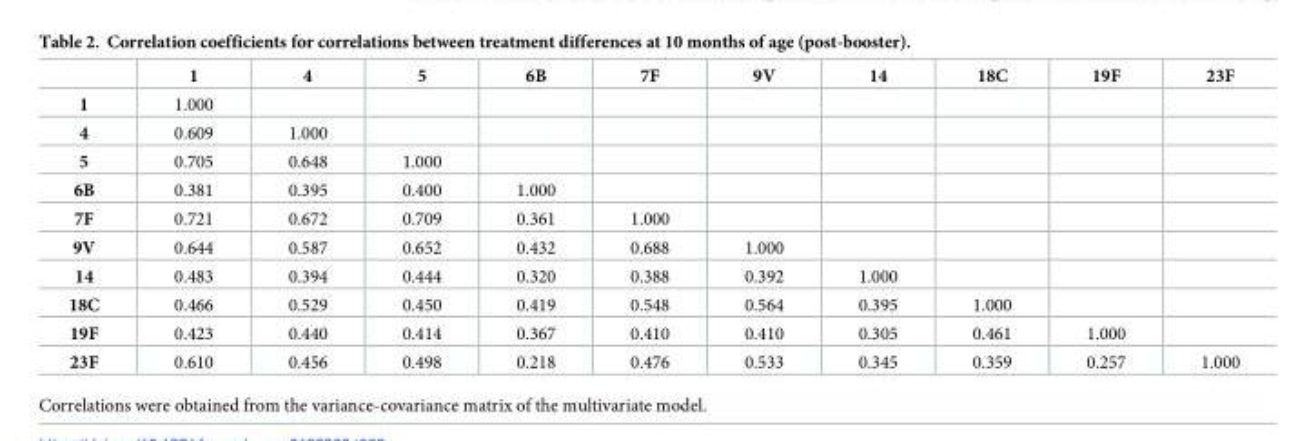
<table><thead><tr><td></td><td>1</td><td>4</td><td>5</td><td>6B</td><td>7F</td><td>9V</td><td>14</td><td>18C</td><td>19F</td><td>23F</td></tr></thead><tbody><tr><td>1</td><td>1.000</td><td></td><td></td><td></td><td></td><td></td><td></td><td></td><td></td><td></td></tr><tr><td>4</td><td>0.609</td><td>1.000</td><td></td><td></td><td></td><td></td><td></td><td></td><td></td><td></td></tr><tr><td>5</td><td>0.705</td><td>0.648</td><td>1.000</td><td></td><td></td><td></td><td></td><td></td><td></td><td></td></tr><tr><td>6B</td><td>0.381</td><td>0.395</td><td>0.400</td><td>1.000</td><td></td><td></td><td></td><td></td><td></td><td></td></tr><tr><td>7F</td><td>0.721</td><td>0.672</td><td>0.709</td><td>0.361</td><td>1.000</td><td></td><td></td><td></td><td></td><td></td></tr><tr><td>9V</td><td>0.644</td><td>0.587</td><td>0.652</td><td>0.432</td><td>0.688</td><td>1.000</td><td></td><td></td><td></td><td></td></tr><tr><td>14</td><td>0.483</td><td>0.394</td><td>0.444</td><td>0.320</td><td>0.388</td><td>0.392</td><td>1.000</td><td></td><td></td><td></td></tr><tr><td>18C</td><td>0.466</td><td>0.529</td><td>0.450</td><td>0.419</td><td>0.548</td><td>0.564</td><td>0.395</td><td>1.000</td><td></td><td></td></tr><tr><td>19F</td><td>0.423</td><td>0.440</td><td>0.414</td><td>0.367</td><td>0.410</td><td>0.410</td><td>0.305</td><td>0.461</td><td>1.000</td><td></td></tr><tr><td>23F</td><td>0.610</td><td>0.456</td><td>0.498</td><td>0.218</td><td>0.476</td><td>0.533</td><td>0.345</td><td>0.359</td><td>0.257</td><td>1.000</td></tr></tbody></table>